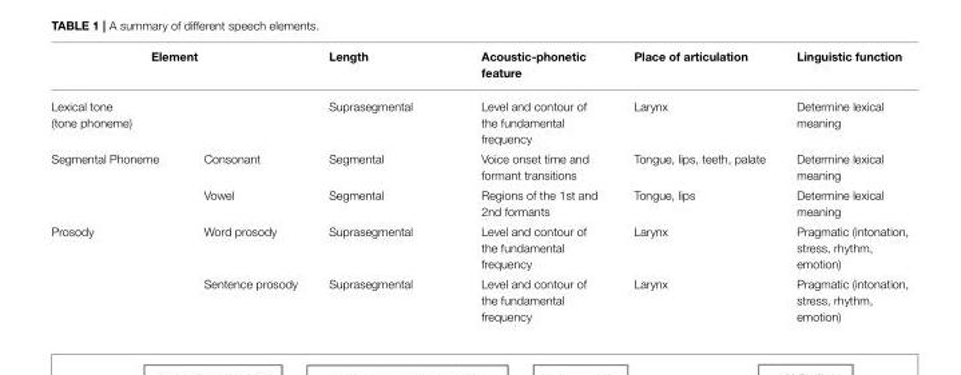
<table><thead><tr><td rowspan="2" colspan="2">Element Lexical tone (tone phoneme)</td><td rowspan="3">Length Suprasegmental Segmental</td><td rowspan="3">Acoustic-phonetic feature Level and contour of the fundamental frequency Voice onset time and formant transitions</td><td rowspan="3">Place of articulation Larynx Tongue, lips, teeth, palate</td><td rowspan="3">Linguistic function Determine lexical meaning Determine lexical meaning</td></tr><tr></tr><tr><td>Segmental Phoneme</td><td>Consonant</td></tr></thead><tbody><tr><td></td><td>Vowel</td><td>Segmental</td><td>Regions of the 1st and 2nd formants</td><td>Tongue, lips</td><td>Determine lexical meaning</td></tr><tr><td rowspan="2">Prosody</td><td>Word prosody</td><td>Suprasegmental</td><td>Level and contour of the fundamental frequency</td><td>Larynx</td><td>Pragmatic (intonation, stress, rhythm, emotion)</td></tr><tr><td>Sentence prosody</td><td>Suprasegmental</td><td>Level and contour of the fundamental frequency</td><td>Larynx</td><td>Pragmatic (intonation, stress, rhythm, emotion)</td></tr></tbody></table>